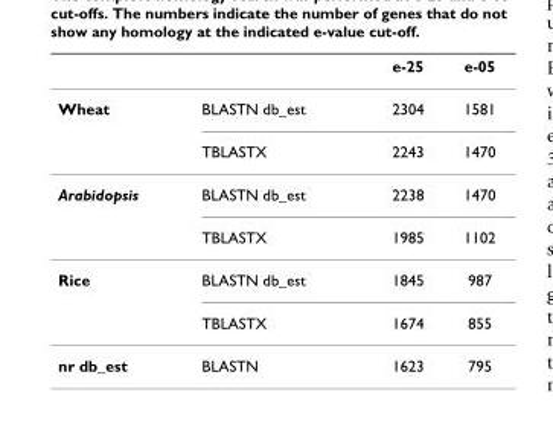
<table><thead><tr><td></td><td></td><td>e-25</td><td>e-05</td></tr></thead><tbody><tr><td rowspan="2">Wheat</td><td>BLASTN db_est</td><td>2304</td><td>1581</td></tr><tr><td>TBLASTX</td><td>2243</td><td>1470</td></tr><tr><td rowspan="2">Arabidopsis</td><td>BLASTN db_est</td><td>2238</td><td>1470</td></tr><tr><td>TBLASTX</td><td>1985</td><td>1102</td></tr><tr><td rowspan="2">Rice</td><td>BLASTN db_est</td><td>1845</td><td>987</td></tr><tr><td>TBLASTX</td><td>1674</td><td>855</td></tr><tr><td>nr db_est</td><td>BLASTN</td><td>1623</td><td>795</td></tr></tbody></table>